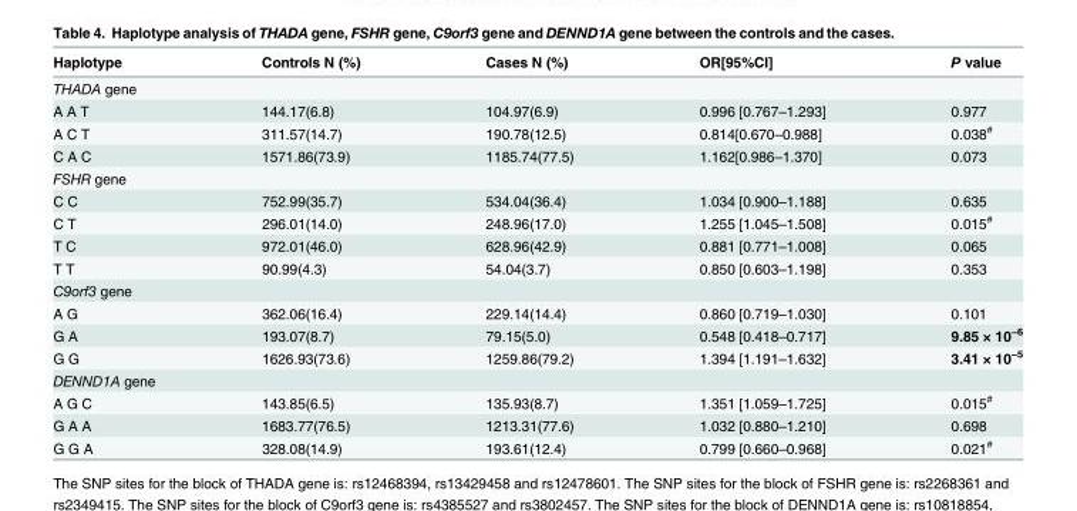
<table><thead><tr><td>Haplotype</td><td>Controls N (%)</td><td>Cases N (%)</td><td>OR[95%CI]</td><td>P value</td></tr></thead><tbody><tr><td colspan="5">THADA gene</td></tr><tr><td>A A T</td><td>144.17(6.8)</td><td>104.97(6.9)</td><td>0.996 [0.767–1.293]</td><td>0.977</td></tr><tr><td>A C T</td><td>311.57(14.7)</td><td>190.78(12.5)</td><td>0.814[0.670–0.988]</td><td>0.038<sup>#</sup></td></tr><tr><td>C A C</td><td>1571.86(73.9)</td><td>1185.74(77.5)</td><td>1.162[0.986–1.370]</td><td>0.073</td></tr><tr><td colspan="5">FSHR gene</td></tr><tr><td>C C</td><td>752.99(35.7)</td><td>534.04(36.4)</td><td>1.034 [0.900–1.188]</td><td>0.635</td></tr><tr><td>C T</td><td>296.01(14.0)</td><td>248.96(17.0)</td><td>1.255 [1.045–1.508]</td><td>0.015<sup>#</sup></td></tr><tr><td>T C</td><td>972.01(46.0)</td><td>628.96(42.9)</td><td>0.881 [0.771–1.008]</td><td>0.065</td></tr><tr><td>T T</td><td>90.99(4.3)</td><td>54.04(3.7)</td><td>0.850 [0.603–1.198]</td><td>0.353</td></tr><tr><td colspan="5">C9orf3 gene</td></tr><tr><td>A G</td><td>362.06(16.4)</td><td>229.14(14.4)</td><td>0.860 [0.719–1.030]</td><td>0.101</td></tr><tr><td>G A</td><td>193.07(8.7)</td><td>79.15(5.0)</td><td>0.548 [0.418–0.717]</td><td>9.85 × 10<sup>−6</sup></td></tr><tr><td>G G</td><td>1626.93(73.6)</td><td>1259.86(79.2)</td><td>1.394 [1.191–1.632]</td><td>3.41 × 10<sup>−5</sup></td></tr><tr><td colspan="5">DENND1A gene</td></tr><tr><td>A G C</td><td>143.85(6.5)</td><td>135.93(8.7)</td><td>1.351 [1.059–1.725]</td><td>0.015<sup>#</sup></td></tr><tr><td>G A A</td><td>1683.77(76.5)</td><td>1213.31(77.6)</td><td>1.032 [0.880–1.210]</td><td>0.698</td></tr><tr><td>G G A</td><td>328.08(14.9)</td><td>193.61(12.4)</td><td>0.799 [0.660–0.968]</td><td>0.021<sup>#</sup></td></tr></tbody></table>